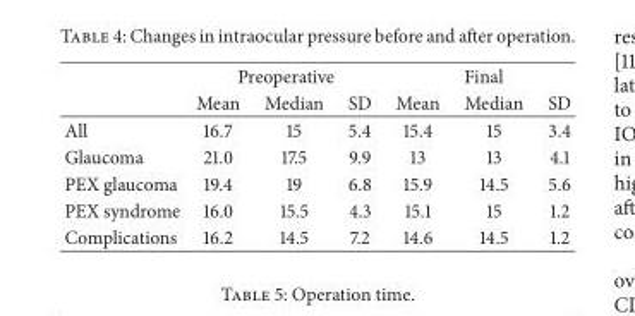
<table><thead><tr><td rowspan="2"></td><td colspan="3">Preoperative</td><td colspan="3">Final</td></tr><tr><td>Mean</td><td>Median</td><td>SD</td><td>Mean</td><td>Median</td><td>SD</td></tr></thead><tbody><tr><td>All</td><td>16.7</td><td>15</td><td>5.4</td><td>15.4</td><td>15</td><td>3.4</td></tr><tr><td>Glaucoma</td><td>21.0</td><td>17.5</td><td>9.9</td><td>13</td><td>13</td><td>4.1</td></tr><tr><td>PEX glaucoma</td><td>19.4</td><td>19</td><td>6.8</td><td>15.9</td><td>14.5</td><td>5.6</td></tr><tr><td>PEX syndrome</td><td>16.0</td><td>15.5</td><td>4.3</td><td>15.1</td><td>15</td><td>1.2</td></tr><tr><td>Complications</td><td>16.2</td><td>14.5</td><td>7.2</td><td>14.6</td><td>14.5</td><td>1.2</td></tr></tbody></table>